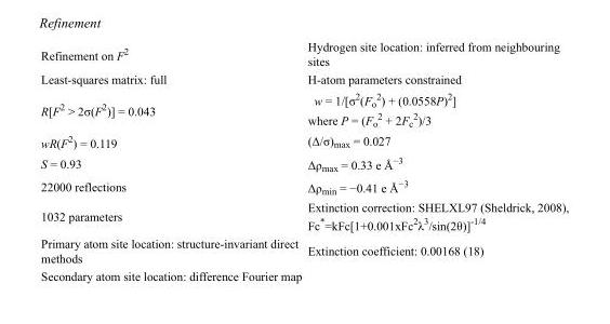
<table><tbody><tr><td>Refinement on F<sup>2</sup></td><td>Hydrogen site location: inferred from neighbouring sites</td></tr><tr><td>Least-squares matrix: full</td><td>H-atom parameters constrained</td></tr><tr><td>R[F<sup>2</sup> &gt; 2σ(F<sup>2</sup>)] = 0.043</td><td>w = 1/[σ<sup>2</sup>(F<sub>o</sub> <sup>2</sup>) + (0.0558P)<sup>2</sup>] where P = (F<sub>o</sub> <sup>2</sup> + 2F<sub>c</sub> <sup>2</sup>)/3</td></tr><tr><td>wR(F<sup>2</sup>) = 0.119</td><td>(Δ/σ)<sub>max</sub> = 0.027</td></tr><tr><td>S = 0.93</td><td>Δρ<sub>max</sub> = 0.33 e Å<sup>−3</sup></td></tr><tr><td>22000 reflections</td><td>Δρ<sub>min</sub> = −0.41 e Å<sup>−3</sup></td></tr><tr><td>1032 parameters</td><td>Extinction correction: SHELXL97 (Sheldrick, 2008), Fc*=kFc[1+0.001xFc<sup>2</sup>λ<sup>3</sup>/sin(2θ)]<sup>-1/4</sup></td></tr><tr><td>Primary atom site location: structure-invariant direct methods</td><td>Extinction coefficient: 0.00168 (18)</td></tr><tr><td>Secondary atom site location: difference Fourier map</td><td></td></tr></tbody></table>